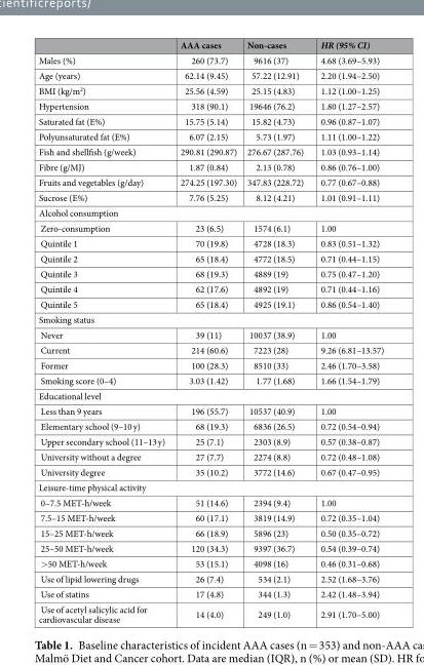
<table><thead><tr><td></td><td>AAA cases</td><td>Non-cases</td><td>HR (95% CI)</td></tr></thead><tbody><tr><td>Males (%)</td><td>260 (73.7)</td><td>9616 (37)</td><td>4.68 (3.69–5.93)</td></tr><tr><td>Age (years)</td><td>62.14 (9.45)</td><td>57.22 (12.91)</td><td>2.20 (1.94–2.50)</td></tr><tr><td>BMI (kg/m<sup>2</sup>)</td><td>25.56 (4.59)</td><td>25.15 (4.83)</td><td>1.12 (1.00–1.25)</td></tr><tr><td>Hypertension</td><td>318 (90.1)</td><td>19646 (76.2)</td><td>1.80 (1.27–2.57)</td></tr><tr><td>Saturated fat (E%)</td><td>15.75 (5.14)</td><td>15.82 (4.73)</td><td>0.96 (0.87–1.07)</td></tr><tr><td>Polyunsaturated fat (E%)</td><td>6.07 (2.15)</td><td>5.73 (1.97)</td><td>1.11 (1.00–1.22)</td></tr><tr><td>Fish and shellfish (g/week)</td><td>290.81 (290.87)</td><td>276.67 (287.76)</td><td>1.03 (0.93–1.14)</td></tr><tr><td>Fibre (g/MJ)</td><td>1.87 (0.84)</td><td>2.13 (0.78)</td><td>0.86 (0.76–1.00)</td></tr><tr><td>Fruits and vegetables (g/day)</td><td>274.25 (197.30)</td><td>347.83 (228.72)</td><td>0.77 (0.67–0.88)</td></tr><tr><td>Sucrose (E%)</td><td>7.76 (5.25)</td><td>8.12 (4.21)</td><td>1.01 (0.91–1.11)</td></tr><tr><td colspan="4">Alcohol consumption</td></tr><tr><td>Zero-consumption</td><td>23 (6.5)</td><td>1574 (6.1)</td><td>1.00</td></tr><tr><td>Quintile 1</td><td>70 (19.8)</td><td>4728 (18.3)</td><td>0.83 (0.51–1.32)</td></tr><tr><td>Quintile 2</td><td>65 (18.4)</td><td>4772 (18.5)</td><td>0.71 (0.44–1.15)</td></tr><tr><td>Quintile 3</td><td>68 (19.3)</td><td>4889 (19)</td><td>0.75 (0.47–1.20)</td></tr><tr><td>Quintile 4</td><td>62 (17.6)</td><td>4892 (19)</td><td>0.71 (0.44–1.16)</td></tr><tr><td>Quintile 5</td><td>65 (18.4)</td><td>4925 (19.1)</td><td>0.86 (0.54–1.40)</td></tr><tr><td colspan="4">Smoking status</td></tr><tr><td>Never</td><td>39 (11)</td><td>10037 (38.9)</td><td>1.00</td></tr><tr><td>Current</td><td>214 (60.6)</td><td>7223 (28)</td><td>9.26 (6.81–13.57)</td></tr><tr><td>Former</td><td>100 (28.3)</td><td>8510 (33)</td><td>2.46 (1.70–3.58)</td></tr><tr><td>Smoking score (0–4)</td><td>3.03 (1.42)</td><td>1.77 (1.68)</td><td>1.66 (1.54–1.79)</td></tr><tr><td colspan="4">Educational level</td></tr><tr><td>Less than 9 years</td><td>196 (55.7)</td><td>10537 (40.9)</td><td>1.00</td></tr><tr><td>Elementary school (9–10 y)</td><td>68 (19.3)</td><td>6836 (26.5)</td><td>0.72 (0.54–0.94)</td></tr><tr><td>Upper secondary school (11–13 y)</td><td>25 (7.1)</td><td>2303 (8.9)</td><td>0.57 (0.38–0.87)</td></tr><tr><td>University without a degree</td><td>27 (7.7)</td><td>2274 (8.8)</td><td>0.72 (0.48–1.08)</td></tr><tr><td>University degree</td><td>35 (10.2)</td><td>3772 (14.6)</td><td>0.67 (0.47–0.95)</td></tr><tr><td colspan="4">Leisure-time physical activity</td></tr><tr><td>0–7.5 MET-h/week</td><td>51 (14.6)</td><td>2394 (9.4)</td><td>1.00</td></tr><tr><td>7.5–15 MET-h/week</td><td>60 (17.1)</td><td>3819 (14.9)</td><td>0.72 (0.35–1.04)</td></tr><tr><td>15–25 MET-h/week</td><td>66 (18.9)</td><td>5896 (23)</td><td>0.50 (0.35–0.72)</td></tr><tr><td>25–50 MET-h/week</td><td>120 (34.3)</td><td>9397 (36.7)</td><td>0.54 (0.39–0.74)</td></tr><tr><td>&gt;50 MET-h/week</td><td>53 (15.1)</td><td>4098 (16)</td><td>0.46 (0.31–0.68)</td></tr><tr><td>Use of lipid lowering drugs</td><td>26 (7.4)</td><td>534 (2.1)</td><td>2.52 (1.68–3.76)</td></tr><tr><td>Use of statins</td><td>17 (4.8)</td><td>344 (1.3)</td><td>2.42 (1.48–3.94)</td></tr><tr><td>Use of acetyl salicylic acid for cardiovascular disease</td><td>14 (4.0)</td><td>249 (1.0)</td><td>2.91 (1.70–5.00)</td></tr></tbody></table>